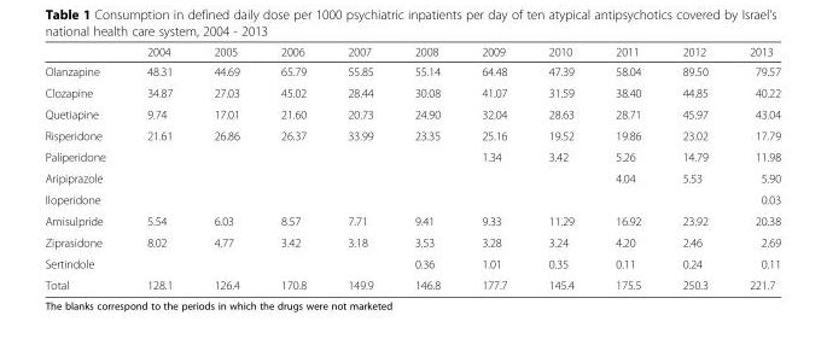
<table><thead><tr><td></td><td>2004</td><td>2005</td><td>2006</td><td>2007</td><td>2008</td><td>2009</td><td>2010</td><td>2011</td><td>2012</td><td>2013</td></tr></thead><tbody><tr><td>Olanzapine</td><td>48.31</td><td>44.69</td><td>65.79</td><td>55.85</td><td>55.14</td><td>64.48</td><td>47.39</td><td>58.04</td><td>89.50</td><td>79.57</td></tr><tr><td>Clozapine</td><td>34.87</td><td>27.03</td><td>45.02</td><td>28.44</td><td>30.08</td><td>41.07</td><td>31.59</td><td>38.40</td><td>44.85</td><td>40.22</td></tr><tr><td>Quetiapine</td><td>9.74</td><td>17.01</td><td>21.60</td><td>20.73</td><td>24.90</td><td>32.04</td><td>28.63</td><td>28.71</td><td>45.97</td><td>43.04</td></tr><tr><td>Risperidone</td><td>21.61</td><td>26.86</td><td>26.37</td><td>33.99</td><td>23.35</td><td>25.16</td><td>19.52</td><td>19.86</td><td>23.02</td><td>17.79</td></tr><tr><td>Paliperidone</td><td></td><td></td><td></td><td></td><td></td><td>1.34</td><td>3.42</td><td>5.26</td><td>14.79</td><td>11.98</td></tr><tr><td>Aripiprazole</td><td></td><td></td><td></td><td></td><td></td><td></td><td></td><td>4.04</td><td>5.53</td><td>5.90</td></tr><tr><td>Iloperidone</td><td></td><td></td><td></td><td></td><td></td><td></td><td></td><td></td><td></td><td>0.03</td></tr><tr><td>Amisulpride</td><td>5.54</td><td>6.03</td><td>8.57</td><td>7.71</td><td>9.41</td><td>9.33</td><td>11.29</td><td>16.92</td><td>23.92</td><td>20.38</td></tr><tr><td>Ziprasidone</td><td>8.02</td><td>4.77</td><td>3.42</td><td>3.18</td><td>3.53</td><td>3.28</td><td>3.24</td><td>4.20</td><td>2.46</td><td>2.69</td></tr><tr><td>Sertindole</td><td></td><td></td><td></td><td></td><td>0.36</td><td>1.01</td><td>0.35</td><td>0.11</td><td>0.24</td><td>0.11</td></tr><tr><td>Total</td><td>128.1</td><td>126.4</td><td>170.8</td><td>149.9</td><td>146.8</td><td>177.7</td><td>145.4</td><td>175.5</td><td>250.3</td><td>221.7</td></tr></tbody></table>